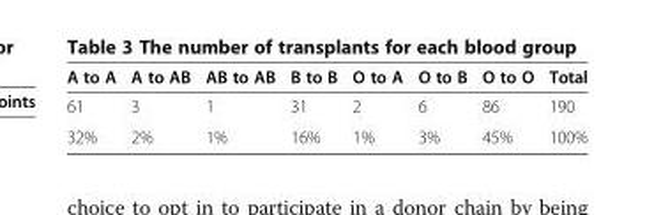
<table><thead><tr><td>A to A</td><td>A to AB</td><td>AB to AB</td><td>B to B</td><td>O to A</td><td>O to B</td><td>O to O</td><td>Total</td></tr></thead><tbody><tr><td>61</td><td>3</td><td>1</td><td>31</td><td>2</td><td>6</td><td>86</td><td>190</td></tr><tr><td>32%</td><td>2%</td><td>1%</td><td>16%</td><td>1%</td><td>3%</td><td>45%</td><td>100%</td></tr></tbody></table>